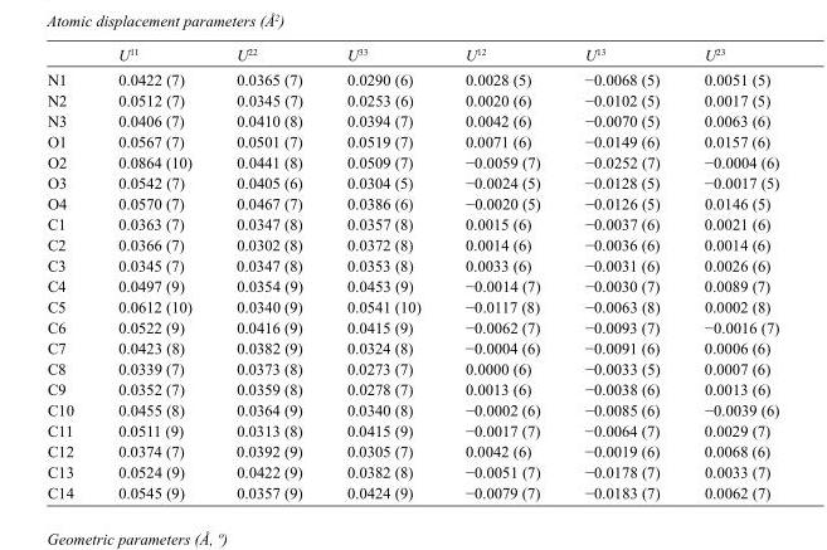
<table><thead><tr><td></td><td>U<sup>11</sup></td><td>U<sup>22</sup></td><td>U<sup>33</sup></td><td>U<sup>12</sup></td><td>U<sup>13</sup></td><td>U<sup>23</sup></td></tr></thead><tbody><tr><td>N1</td><td>0.0422 (7)</td><td>0.0365 (7)</td><td>0.0290 (6)</td><td>0.0028 (5)</td><td>−0.0068 (5)</td><td>0.0051 (5)</td></tr><tr><td>N2</td><td>0.0512 (7)</td><td>0.0345 (7)</td><td>0.0253 (6)</td><td>0.0020 (6)</td><td>−0.0102 (5)</td><td>0.0017 (5)</td></tr><tr><td>N3</td><td>0.0406 (7)</td><td>0.0410 (8)</td><td>0.0394 (7)</td><td>0.0042 (6)</td><td>−0.0070 (5)</td><td>0.0063 (6)</td></tr><tr><td>O1</td><td>0.0567 (7)</td><td>0.0501 (7)</td><td>0.0519 (7)</td><td>0.0071 (6)</td><td>−0.0149 (6)</td><td>0.0157 (6)</td></tr><tr><td>O2</td><td>0.0864 (10)</td><td>0.0441 (8)</td><td>0.0509 (7)</td><td>−0.0059 (7)</td><td>−0.0252 (7)</td><td>−0.0004 (6)</td></tr><tr><td>O3</td><td>0.0542 (7)</td><td>0.0405 (6)</td><td>0.0304 (5)</td><td>−0.0024 (5)</td><td>−0.0128 (5)</td><td>−0.0017 (5)</td></tr><tr><td>O4</td><td>0.0570 (7)</td><td>0.0467 (7)</td><td>0.0386 (6)</td><td>−0.0020 (5)</td><td>−0.0126 (5)</td><td>0.0146 (5)</td></tr><tr><td>C1</td><td>0.0363 (7)</td><td>0.0347 (8)</td><td>0.0357 (8)</td><td>0.0015 (6)</td><td>−0.0037 (6)</td><td>0.0021 (6)</td></tr><tr><td>C2</td><td>0.0366 (7)</td><td>0.0302 (8)</td><td>0.0372 (8)</td><td>0.0014 (6)</td><td>−0.0036 (6)</td><td>0.0014 (6)</td></tr><tr><td>C3</td><td>0.0345 (7)</td><td>0.0347 (8)</td><td>0.0353 (8)</td><td>0.0033 (6)</td><td>−0.0031 (6)</td><td>0.0026 (6)</td></tr><tr><td>C4</td><td>0.0497 (9)</td><td>0.0354 (9)</td><td>0.0453 (9)</td><td>−0.0014 (7)</td><td>−0.0030 (7)</td><td>0.0089 (7)</td></tr><tr><td>C5</td><td>0.0612 (10)</td><td>0.0340 (9)</td><td>0.0541 (10)</td><td>−0.0117 (8)</td><td>−0.0063 (8)</td><td>0.0002 (8)</td></tr><tr><td>C6</td><td>0.0522 (9)</td><td>0.0416 (9)</td><td>0.0415 (9)</td><td>−0.0062 (7)</td><td>−0.0093 (7)</td><td>−0.0016 (7)</td></tr><tr><td>C7</td><td>0.0423 (8)</td><td>0.0382 (9)</td><td>0.0324 (8)</td><td>−0.0004 (6)</td><td>−0.0091 (6)</td><td>0.0006 (6)</td></tr><tr><td>C8</td><td>0.0339 (7)</td><td>0.0373 (8)</td><td>0.0273 (7)</td><td>0.0000 (6)</td><td>−0.0033 (5)</td><td>0.0007 (6)</td></tr><tr><td>C9</td><td>0.0352 (7)</td><td>0.0359 (8)</td><td>0.0278 (7)</td><td>0.0013 (6)</td><td>−0.0038 (6)</td><td>0.0013 (6)</td></tr><tr><td>C10</td><td>0.0455 (8)</td><td>0.0364 (9)</td><td>0.0340 (8)</td><td>−0.0002 (6)</td><td>−0.0085 (6)</td><td>−0.0039 (6)</td></tr><tr><td>C11</td><td>0.0511 (9)</td><td>0.0313 (8)</td><td>0.0415 (9)</td><td>−0.0017 (7)</td><td>−0.0064 (7)</td><td>0.0029 (7)</td></tr><tr><td>C12</td><td>0.0374 (7)</td><td>0.0392 (9)</td><td>0.0305 (7)</td><td>0.0042 (6)</td><td>−0.0019 (6)</td><td>0.0068 (6)</td></tr><tr><td>C13</td><td>0.0524 (9)</td><td>0.0422 (9)</td><td>0.0382 (8)</td><td>−0.0051 (7)</td><td>−0.0178 (7)</td><td>0.0033 (7)</td></tr><tr><td>C14</td><td>0.0545 (9)</td><td>0.0357 (9)</td><td>0.0424 (9)</td><td>−0.0079 (7)</td><td>−0.0183 (7)</td><td>0.0062 (7)</td></tr></tbody></table>